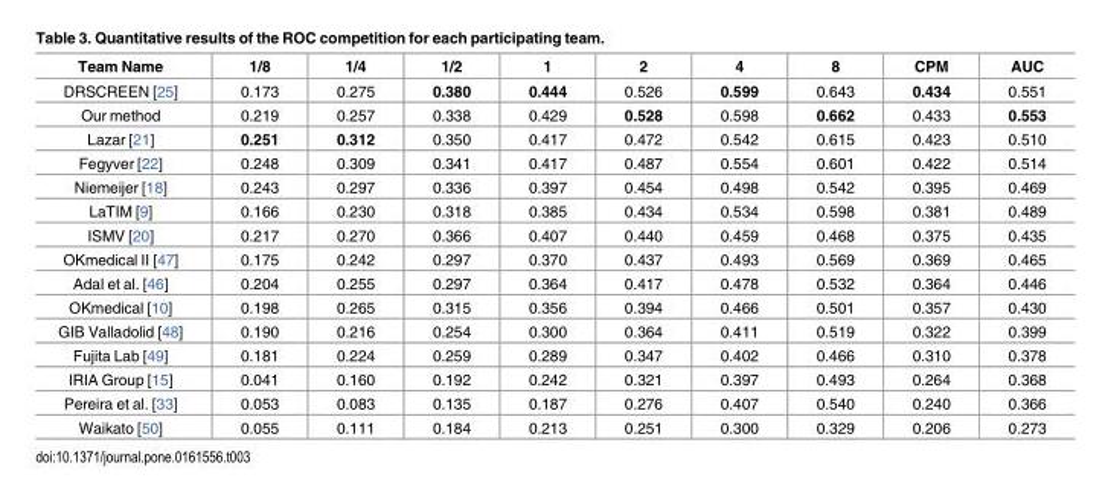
<table><thead><tr><td>Team Name</td><td>1/8</td><td>1/4</td><td>1/2</td><td>1</td><td>2</td><td>4</td><td>8</td><td>CPM</td><td>AUC</td></tr></thead><tbody><tr><td>DRSCREEN [25]</td><td>0.173</td><td>0.275</td><td>0.380</td><td>0.444</td><td>0.526</td><td>0.599</td><td>0.643</td><td>0.434</td><td>0.551</td></tr><tr><td>Our method</td><td>0.219</td><td>0.257</td><td>0.338</td><td>0.429</td><td>0.528</td><td>0.598</td><td>0.662</td><td>0.433</td><td>0.553</td></tr><tr><td>Lazar [21]</td><td>0.251</td><td>0.312</td><td>0.350</td><td>0.417</td><td>0.472</td><td>0.542</td><td>0.615</td><td>0.423</td><td>0.510</td></tr><tr><td>Fegyver [22]</td><td>0.248</td><td>0.309</td><td>0.341</td><td>0.417</td><td>0.487</td><td>0.554</td><td>0.601</td><td>0.422</td><td>0.514</td></tr><tr><td>Niemeijer [18]</td><td>0.243</td><td>0.297</td><td>0.336</td><td>0.397</td><td>0.454</td><td>0.498</td><td>0.542</td><td>0.395</td><td>0.469</td></tr><tr><td>LaTIM [9]</td><td>0.166</td><td>0.230</td><td>0.318</td><td>0.385</td><td>0.434</td><td>0.534</td><td>0.598</td><td>0.381</td><td>0.489</td></tr><tr><td>ISMV [20]</td><td>0.217</td><td>0.270</td><td>0.366</td><td>0.407</td><td>0.440</td><td>0.459</td><td>0.468</td><td>0.375</td><td>0.435</td></tr><tr><td>OKmedical II [47]</td><td>0.175</td><td>0.242</td><td>0.297</td><td>0.370</td><td>0.437</td><td>0.493</td><td>0.569</td><td>0.369</td><td>0.465</td></tr><tr><td>Adal et al. [46]</td><td>0.204</td><td>0.255</td><td>0.297</td><td>0.364</td><td>0.417</td><td>0.478</td><td>0.532</td><td>0.364</td><td>0.446</td></tr><tr><td>OKmedical [10]</td><td>0.198</td><td>0.265</td><td>0.315</td><td>0.356</td><td>0.394</td><td>0.466</td><td>0.501</td><td>0.357</td><td>0.430</td></tr><tr><td>GIB Valladolid [48]</td><td>0.190</td><td>0.216</td><td>0.254</td><td>0.300</td><td>0.364</td><td>0.411</td><td>0.519</td><td>0.322</td><td>0.399</td></tr><tr><td>Fujita Lab [49]</td><td>0.181</td><td>0.224</td><td>0.259</td><td>0.289</td><td>0.347</td><td>0.402</td><td>0.466</td><td>0.310</td><td>0.378</td></tr><tr><td>IRIA Group [15]</td><td>0.041</td><td>0.160</td><td>0.192</td><td>0.242</td><td>0.321</td><td>0.397</td><td>0.493</td><td>0.264</td><td>0.368</td></tr><tr><td>Pereira et al. [33]</td><td>0.053</td><td>0.083</td><td>0.135</td><td>0.187</td><td>0.276</td><td>0.407</td><td>0.540</td><td>0.240</td><td>0.366</td></tr><tr><td>Waikato [50]</td><td>0.055</td><td>0.111</td><td>0.184</td><td>0.213</td><td>0.251</td><td>0.300</td><td>0.329</td><td>0.206</td><td>0.273</td></tr></tbody></table>